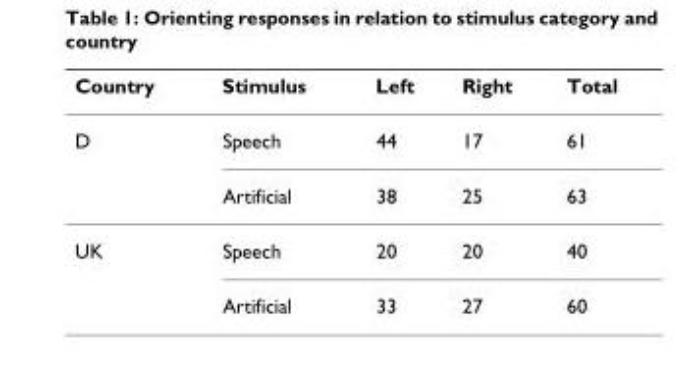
<table><thead><tr><td>Country</td><td>Stimulus</td><td>Left</td><td>Right</td><td>Total</td></tr></thead><tbody><tr><td rowspan="2">D</td><td>Speech</td><td>44</td><td>17</td><td>61</td></tr><tr><td>Artificial</td><td>38</td><td>25</td><td>63</td></tr><tr><td rowspan="2">UK</td><td>Speech</td><td>20</td><td>20</td><td>40</td></tr><tr><td>Artificial</td><td>33</td><td>27</td><td>60</td></tr></tbody></table>